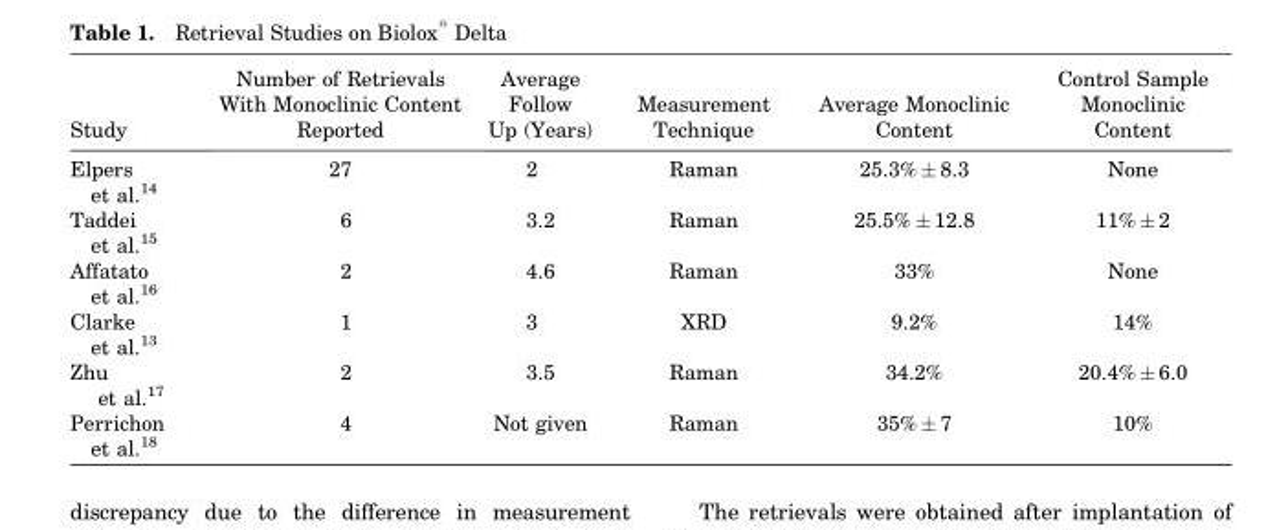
<table><thead><tr><td>Study</td><td>Number of Retrievals With Monoclinic Content Reported</td><td>Average Follow Up (Years)</td><td>Measurement Technique</td><td>Average Monoclinic Content</td><td>Control Sample Monoclinic Content</td></tr></thead><tbody><tr><td>Elpers et al.<sup>14</sup></td><td>27</td><td>2</td><td>Raman</td><td>25.3% ± 8.3</td><td>None</td></tr><tr><td>Taddei et al.<sup>15</sup></td><td>6</td><td>3.2</td><td>Raman</td><td>25.5% ± 12.8</td><td>11% ± 2</td></tr><tr><td>Affatato et al.<sup>16</sup></td><td>2</td><td>4.6</td><td>Raman</td><td>33%</td><td>None</td></tr><tr><td>Clarke et al.<sup>13</sup></td><td>1</td><td>3</td><td>XRD</td><td>9.2%</td><td>14%</td></tr><tr><td>Zhu et al.<sup>17</sup></td><td>2</td><td>3.5</td><td>Raman</td><td>34.2%</td><td>20.4% ± 6.0</td></tr><tr><td>Perrichon et al.<sup>18</sup></td><td>4</td><td>Not given</td><td>Raman</td><td>35% ± 7</td><td>10%</td></tr></tbody></table>